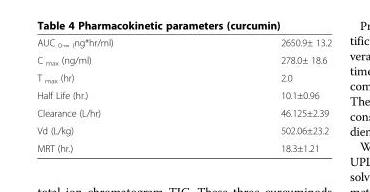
<table><tbody><tr><td>AUC <sub>0-∞ (</sub>ng*hr/ml)</td><td>2650.9± 13.2</td></tr><tr><td>C <sub>max</sub> (ng/ml)</td><td>278.0± 18.6</td></tr><tr><td>T <sub>max</sub> (hr)</td><td>2.0</td></tr><tr><td>Half Life (hr.)</td><td>10.1±0.96</td></tr><tr><td>Clearance (L/hr)</td><td>46.125±2.39</td></tr><tr><td>Vd (L/kg)</td><td>502.06±23.2</td></tr><tr><td>MRT (hr.)</td><td>18.3±1.21</td></tr></tbody></table>